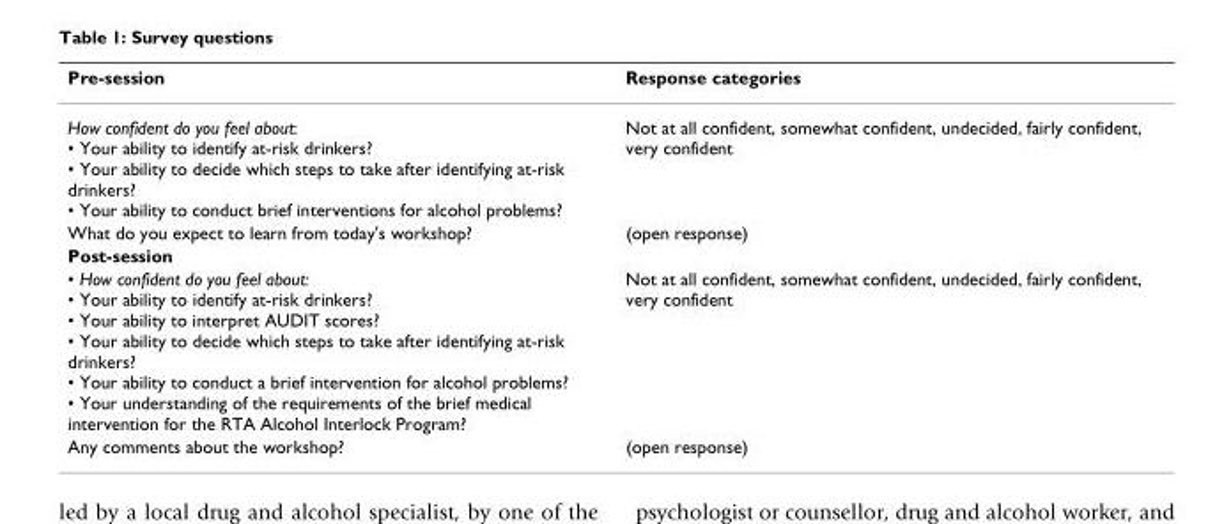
<table><thead><tr><td>Pre-session</td><td>Response categories</td></tr></thead><tbody><tr><td>How confident do you feel about: • Your ability to identify at-risk drinkers? • Your ability to decide which steps to take after identifying at-risk drinkers? • Your ability to conduct brief interventions for alcohol problems?</td><td>Not at all confident, somewhat confident, undecided, fairly confident, very confident</td></tr><tr><td>What do you expect to learn from today&#x27;s workshop?</td><td>(open response)</td></tr><tr><td colspan="2">Post-session</td></tr><tr><td>• How confident do you feel about: • Your ability to identify at-risk drinkers? • Your ability to interpret AUDIT scores? • Your ability to decide which steps to take after identifying at-risk drinkers? • Your ability to conduct a brief intervention for alcohol problems? • Your understanding of the requirements of the brief medical intervention for the RTA Alcohol Interlock Program?</td><td>Not at all confident, somewhat confident, undecided, fairly confident, very confident</td></tr><tr><td>Any comments about the workshop?</td><td>(open response)</td></tr></tbody></table>